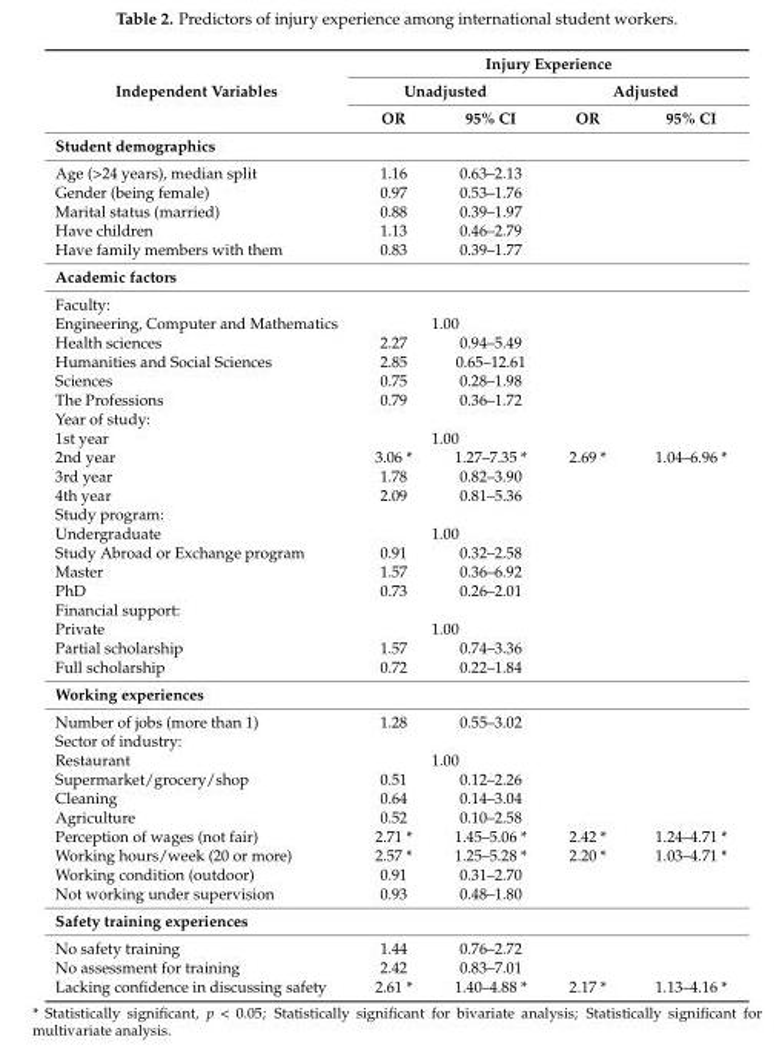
<table><thead><tr><td rowspan="3">Independent Variables</td><td colspan="4">Injury Experience</td></tr><tr><td colspan="2">Unadjusted</td><td colspan="2">Adjusted</td></tr><tr><td>OR</td><td>95% CI</td><td>OR</td><td>95% CI</td></tr></thead><tbody><tr><td colspan="5">Student demographics</td></tr><tr><td>Age (&gt;24 years), median split</td><td>1.16</td><td>0.63–2.13</td><td></td><td></td></tr><tr><td>Gender (being female)</td><td>0.97</td><td>0.53–1.76</td><td></td><td></td></tr><tr><td>Marital status (married)</td><td>0.88</td><td>0.39–1.97</td><td></td><td></td></tr><tr><td>Have children</td><td>1.13</td><td>0.46–2.79</td><td></td><td></td></tr><tr><td>Have family members with them</td><td>0.83</td><td>0.39–1.77</td><td></td><td></td></tr><tr><td colspan="5">Academic factors</td></tr><tr><td colspan="5">Faculty:</td></tr><tr><td>Engineering, Computer and Mathematics</td><td colspan="2">1.00</td><td></td><td></td></tr><tr><td>Health sciences</td><td>2.27</td><td>0.94–5.49</td><td></td><td></td></tr><tr><td>Humanities and Social Sciences</td><td>2.85</td><td>0.65–12.61</td><td></td><td></td></tr><tr><td>Sciences</td><td>0.75</td><td>0.28–1.98</td><td></td><td></td></tr><tr><td>The Professions</td><td>0.79</td><td>0.36–1.72</td><td></td><td></td></tr><tr><td colspan="5">Year of study:</td></tr><tr><td>1st year</td><td colspan="2">1.00</td><td></td><td></td></tr><tr><td>2nd year</td><td>3.06 *</td><td>1.27–7.35 *</td><td>2.69 *</td><td>1.04–6.96 *</td></tr><tr><td>3rd year</td><td>1.78</td><td>0.82–3.90</td><td></td><td></td></tr><tr><td>4th year</td><td>2.09</td><td>0.81–5.36</td><td></td><td></td></tr><tr><td colspan="5">Study program:</td></tr><tr><td>Undergraduate</td><td colspan="2">1.00</td><td></td><td></td></tr><tr><td>Study Abroad or Exchange program</td><td>0.91</td><td>0.32–2.58</td><td></td><td></td></tr><tr><td>Master</td><td>1.57</td><td>0.36–6.92</td><td></td><td></td></tr><tr><td>PhD</td><td>0.73</td><td>0.26–2.01</td><td></td><td></td></tr><tr><td colspan="5">Financial support:</td></tr><tr><td>Private</td><td colspan="2">1.00</td><td></td><td></td></tr><tr><td>Partial scholarship</td><td>1.57</td><td>0.74–3.36</td><td></td><td></td></tr><tr><td>Full scholarship</td><td>0.72</td><td>0.22–1.84</td><td></td><td></td></tr><tr><td colspan="5">Working experiences</td></tr><tr><td>Number of jobs (more than 1)</td><td>1.28</td><td>0.55–3.02</td><td></td><td></td></tr><tr><td colspan="5">Sector of industry:</td></tr><tr><td>Restaurant</td><td colspan="2">1.00</td><td></td><td></td></tr><tr><td>Supermarket/grocery/shop</td><td>0.51</td><td>0.12–2.26</td><td></td><td></td></tr><tr><td>Cleaning</td><td>0.64</td><td>0.14–3.04</td><td></td><td></td></tr><tr><td>Agriculture</td><td>0.52</td><td>0.10–2.58</td><td></td><td></td></tr><tr><td>Perception of wages (not fair)</td><td>2.71 *</td><td>1.45–5.06 *</td><td>2.42 *</td><td>1.24–4.71 *</td></tr><tr><td>Working hours/week (20 or more)</td><td>2.57 *</td><td>1.25–5.28 *</td><td>2.20 *</td><td>1.03–4.71 *</td></tr><tr><td>Working condition (outdoor)</td><td>0.91</td><td>0.31–2.70</td><td></td><td></td></tr><tr><td>Not working under supervision</td><td>0.93</td><td>0.48–1.80</td><td></td><td></td></tr><tr><td colspan="5">Safety training experiences</td></tr><tr><td>No safety training</td><td>1.44</td><td>0.76–2.72</td><td></td><td></td></tr><tr><td>No assessment for training</td><td>2.42</td><td>0.83–7.01</td><td></td><td></td></tr><tr><td>Lacking confidence in discussing safety</td><td>2.61 *</td><td>1.40–4.88 *</td><td>2.17 *</td><td>1.13–4.16 *</td></tr></tbody></table>